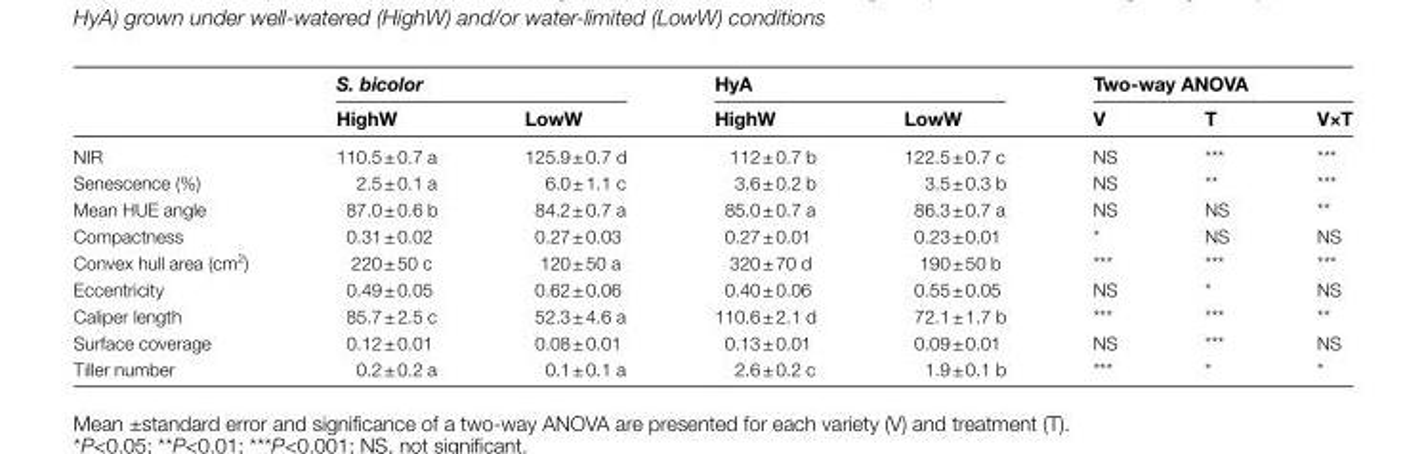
<table><thead><tr><td rowspan="2"></td><td colspan="2">S. bicolor</td><td colspan="2">HyA</td><td colspan="3">Two-way ANOVA</td></tr><tr><td>HighW</td><td>LowW</td><td>HighW</td><td>LowW</td><td>V</td><td>T</td><td>V×T</td></tr></thead><tbody><tr><td>NIR</td><td>110.5 ± 0.7 a</td><td>125.9 ± 0.7 d</td><td>112 ± 0.7 b</td><td>122.5 ± 0.7 c</td><td>NS</td><td>***</td><td>***</td></tr><tr><td>Senescence (%)</td><td>2.5 ± 0.1 a</td><td>6.0 ± 1.1 c</td><td>3.6 ± 0.2 b</td><td>3.5 ± 0.3 b</td><td>NS</td><td>**</td><td>***</td></tr><tr><td>Mean HUE angle</td><td>87.0 ± 0.6 b</td><td>84.2 ± 0.7 a</td><td>85.0 ± 0.7 a</td><td>86.3 ± 0.7 a</td><td>NS</td><td>NS</td><td>**</td></tr><tr><td>Compactness</td><td>0.31 ± 0.02</td><td>0.27 ± 0.03</td><td>0.27 ± 0.01</td><td>0.23 ± 0.01</td><td>*</td><td>NS</td><td>NS</td></tr><tr><td>Convex hull area (cm<sup>2</sup>)</td><td>220 ± 50 c</td><td>120 ± 50 a</td><td>320 ± 70 d</td><td>190 ± 50 b</td><td>***</td><td>***</td><td>***</td></tr><tr><td>Eccentricity</td><td>0.49 ± 0.05</td><td>0.62 ± 0.06</td><td>0.40 ± 0.06</td><td>0.55 ± 0.05</td><td>NS</td><td>*</td><td>NS</td></tr><tr><td>Caliper length</td><td>85.7 ± 2.5 c</td><td>52.3 ± 4.6 a</td><td>110.6 ± 2.1 d</td><td>72.1 ± 1.7 b</td><td>***</td><td>***</td><td>**</td></tr><tr><td>Surface coverage</td><td>0.12 ± 0.01</td><td>0.08 ± 0.01</td><td>0.13 ± 0.01</td><td>0.09 ± 0.01</td><td>NS</td><td>***</td><td>NS</td></tr><tr><td>Tiller number</td><td>0.2 ± 0.2 a</td><td>0.1 ± 0.1 a</td><td>2.6 ± 0.2 c</td><td>1.9 ± 0.1 b</td><td>***</td><td>*</td><td>*</td></tr></tbody></table>